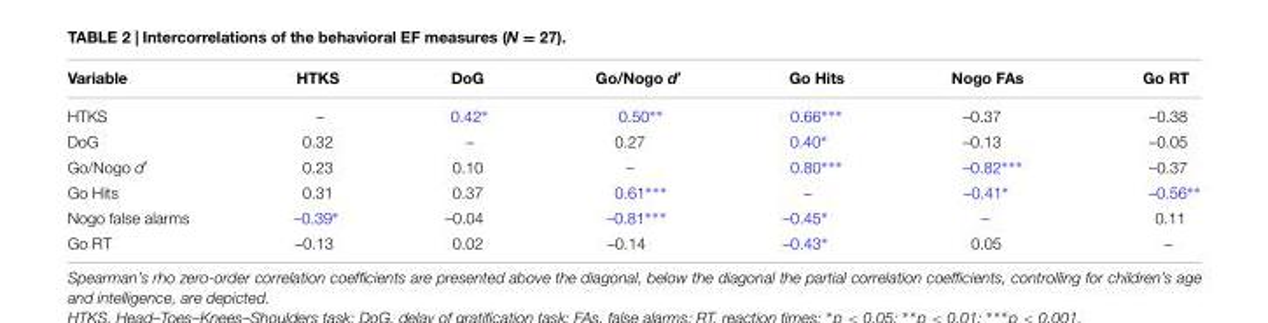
<table><thead><tr><td>Variable</td><td>HTKS</td><td>DoG</td><td>Go/Nogo d′</td><td>Go Hits</td><td>Nogo FAs</td><td>Go RT</td></tr></thead><tbody><tr><td>HTKS</td><td>–</td><td>0.42∗</td><td>0.50∗∗</td><td>0.66∗∗∗</td><td>–0.37</td><td>–0.38</td></tr><tr><td>DoG</td><td>0.32</td><td>–</td><td>0.27</td><td>0.40∗</td><td>–0.13</td><td>–0.05</td></tr><tr><td>Go/Nogo d′</td><td>0.23</td><td>0.10</td><td>–</td><td>0.80∗∗∗</td><td>–0.82∗∗∗</td><td>–0.37</td></tr><tr><td>Go Hits</td><td>0.31</td><td>0.37</td><td>0.61∗∗∗</td><td>–</td><td>–0.41∗</td><td>–0.56∗∗</td></tr><tr><td>Nogo false alarms</td><td>–0.39∗</td><td>–0.04</td><td>–0.81∗∗∗</td><td>–0.45∗</td><td>–</td><td>0.11</td></tr><tr><td>Go RT</td><td>–0.13</td><td>0.02</td><td>–0.14</td><td>–0.43∗</td><td>0.05</td><td>–</td></tr></tbody></table>